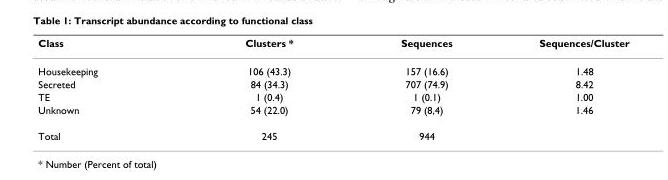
<table><thead><tr><td>Class</td><td>Clusters *</td><td>Sequences</td><td>Sequences/Cluster</td></tr></thead><tbody><tr><td>Housekeeping</td><td>106 (43.3)</td><td>157 (16.6)</td><td>1.48</td></tr><tr><td>Secreted</td><td>84 (34.3)</td><td>707 (74.9)</td><td>8.42</td></tr><tr><td>TE</td><td>1 (0.4)</td><td>1 (0.1)</td><td>1.00</td></tr><tr><td>Unknown</td><td>54 (22.0)</td><td>79 (8,4)</td><td>1.46</td></tr><tr><td>Total</td><td>245</td><td>944</td><td></td></tr></tbody></table>